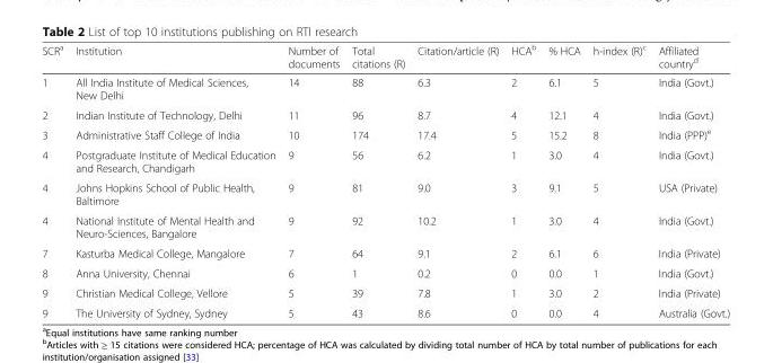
<table><thead><tr><td>SCR<sup>a</sup></td><td>Institution</td><td>Number of documents</td><td>Total citations (R)</td><td>Citation/article (R)</td><td>HCA<sup>b</sup></td><td>% HCA</td><td>h-index (R)<sup>c</sup></td><td>Affiliated country<sup>d</sup></td></tr></thead><tbody><tr><td>1</td><td>All India Institute of Medical Sciences, New Delhi</td><td>14</td><td>88</td><td>6.3</td><td>2</td><td>6.1</td><td>5</td><td>India (Govt.)</td></tr><tr><td>2</td><td>Indian Institute of Technology, Delhi</td><td>11</td><td>96</td><td>8.7</td><td>4</td><td>12.1</td><td>4</td><td>India (Govt.)</td></tr><tr><td>3</td><td>Administrative Staff College of India</td><td>10</td><td>174</td><td>17.4</td><td>5</td><td>15.2</td><td>8</td><td>India (PPP)<sup>e</sup></td></tr><tr><td>4</td><td>Postgraduate Institute of Medical Education and Research, Chandigarh</td><td>9</td><td>56</td><td>6.2</td><td>1</td><td>3.0</td><td>4</td><td>India (Govt.)</td></tr><tr><td>4</td><td>Johns Hopkins School of Public Health, Baltimore</td><td>9</td><td>81</td><td>9.0</td><td>3</td><td>9.1</td><td>5</td><td>USA (Private)</td></tr><tr><td>4</td><td>National Institute of Mental Health and Neuro-Sciences, Bangalore</td><td>9</td><td>92</td><td>10.2</td><td>1</td><td>3.0</td><td>4</td><td>India (Govt.)</td></tr><tr><td>7</td><td>Kasturba Medical College, Mangalore</td><td>7</td><td>64</td><td>9.1</td><td>2</td><td>6.1</td><td>6</td><td>India (Private)</td></tr><tr><td>8</td><td>Anna University, Chennai</td><td>6</td><td>1</td><td>0.2</td><td>0</td><td>0.0</td><td>1</td><td>India (Govt.)</td></tr><tr><td>9</td><td>Christian Medical College, Vellore</td><td>5</td><td>39</td><td>7.8</td><td>1</td><td>3.0</td><td>2</td><td>India (Private)</td></tr><tr><td>9</td><td>The University of Sydney, Sydney</td><td>5</td><td>43</td><td>8.6</td><td>0</td><td>0.0</td><td>4</td><td>Australia (Govt.)</td></tr></tbody></table>